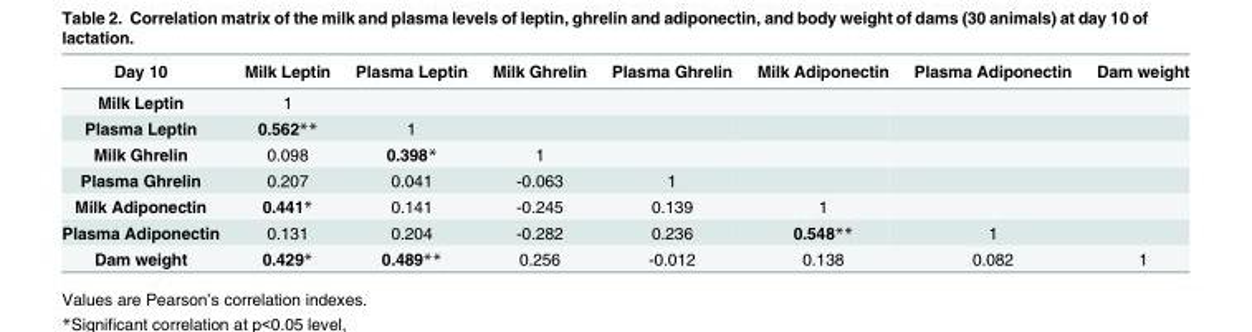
<table><thead><tr><td>Day 10</td><td>Milk Leptin</td><td>Plasma Leptin</td><td>Milk Ghrelin</td><td>Plasma Ghrelin</td><td>Milk Adiponectin</td><td>Plasma Adiponectin</td><td>Dam weight</td></tr></thead><tbody><tr><td>Milk Leptin</td><td>1</td><td></td><td></td><td></td><td></td><td></td><td></td></tr><tr><td>Plasma Leptin</td><td>0.562**</td><td>1</td><td></td><td></td><td></td><td></td><td></td></tr><tr><td>Milk Ghrelin</td><td>0.098</td><td>0.398*</td><td>1</td><td></td><td></td><td></td><td></td></tr><tr><td>Plasma Ghrelin</td><td>0.207</td><td>0.041</td><td>-0.063</td><td>1</td><td></td><td></td><td></td></tr><tr><td>Milk Adiponectin</td><td>0.441*</td><td>0.141</td><td>-0.245</td><td>0.139</td><td>1</td><td></td><td></td></tr><tr><td>Plasma Adiponectin</td><td>0.131</td><td>0.204</td><td>-0.282</td><td>0.236</td><td>0.548**</td><td>1</td><td></td></tr><tr><td>Dam weight</td><td>0.429*</td><td>0.489**</td><td>0.256</td><td>-0.012</td><td>0.138</td><td>0.082</td><td>1</td></tr></tbody></table>